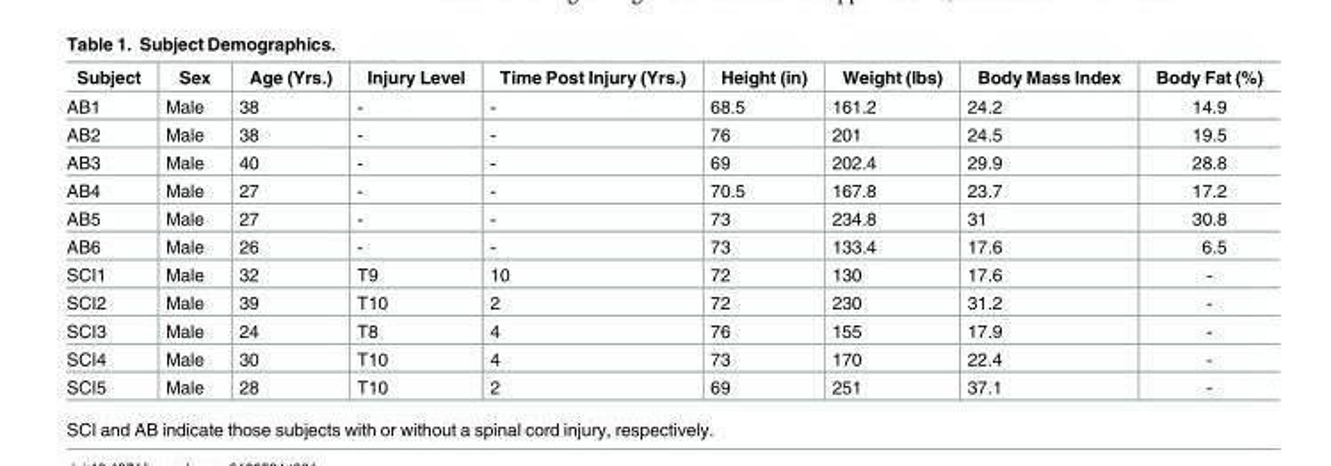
<table><thead><tr><td>Subject</td><td>Sex</td><td>Age (Yrs.)</td><td>Injury Level</td><td>Time Post Injury (Yrs.)</td><td>Height (in)</td><td>Weight (lbs)</td><td>Body Mass Index</td><td>Body Fat (%)</td></tr></thead><tbody><tr><td>AB1</td><td>Male</td><td>38</td><td>-</td><td>-</td><td>68.5</td><td>161.2</td><td>24.2</td><td>14.9</td></tr><tr><td>AB2</td><td>Male</td><td>38</td><td>-</td><td>-</td><td>76</td><td>201</td><td>24.5</td><td>19.5</td></tr><tr><td>AB3</td><td>Male</td><td>40</td><td>-</td><td>-</td><td>69</td><td>202.4</td><td>29.9</td><td>28.8</td></tr><tr><td>AB4</td><td>Male</td><td>27</td><td>-</td><td>-</td><td>70.5</td><td>167.8</td><td>23.7</td><td>17.2</td></tr><tr><td>AB5</td><td>Male</td><td>27</td><td>-</td><td>-</td><td>73</td><td>234.8</td><td>31</td><td>30.8</td></tr><tr><td>AB6</td><td>Male</td><td>26</td><td>-</td><td>-</td><td>73</td><td>133.4</td><td>17.6</td><td>6.5</td></tr><tr><td>SCI1</td><td>Male</td><td>32</td><td>T9</td><td>10</td><td>72</td><td>130</td><td>17.6</td><td>-</td></tr><tr><td>SCI2</td><td>Male</td><td>39</td><td>T10</td><td>2</td><td>72</td><td>230</td><td>31.2</td><td>-</td></tr><tr><td>SCI3</td><td>Male</td><td>24</td><td>T8</td><td>4</td><td>76</td><td>155</td><td>17.9</td><td>-</td></tr><tr><td>SCI4</td><td>Male</td><td>30</td><td>T10</td><td>4</td><td>73</td><td>170</td><td>22.4</td><td>-</td></tr><tr><td>SCI5</td><td>Male</td><td>28</td><td>T10</td><td>2</td><td>69</td><td>251</td><td>37.1</td><td>-</td></tr></tbody></table>